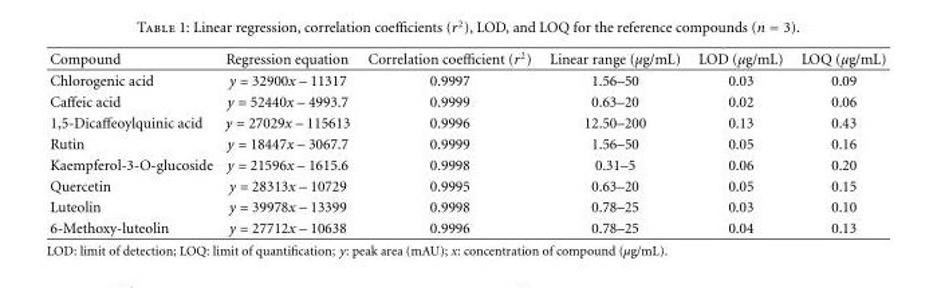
<table><thead><tr><td>Compound</td><td>Regression equation</td><td>Correlation coefficient (r<sup>2</sup>)</td><td>Linear range (μg/mL)</td><td>LOD (μg/mL)</td><td>LOQ (μg/mL)</td></tr></thead><tbody><tr><td>Chlorogenic acid</td><td>y = 32900x – 11317</td><td>0.9997</td><td>1.56–50</td><td>0.03</td><td>0.09</td></tr><tr><td>Caffeic acid</td><td>y = 52440x – 4993.7</td><td>0.9999</td><td>0.63–20</td><td>0.02</td><td>0.06</td></tr><tr><td>1,5-Dicaffeoylquinic acid</td><td>y = 27029x – 115613</td><td>0.9996</td><td>12.50–200</td><td>0.13</td><td>0.43</td></tr><tr><td>Rutin</td><td>y = 18447x – 3067.7</td><td>0.9999</td><td>1.56–50</td><td>0.05</td><td>0.16</td></tr><tr><td>Kaempferol-3-O-glucoside</td><td>y = 21596x – 1615.6</td><td>0.9998</td><td>0.31–5</td><td>0.06</td><td>0.20</td></tr><tr><td>Quercetin</td><td>y = 28313x – 10729</td><td>0.9995</td><td>0.63–20</td><td>0.05</td><td>0.15</td></tr><tr><td>Luteolin</td><td>y = 39978x – 13399</td><td>0.9998</td><td>0.78–25</td><td>0.03</td><td>0.10</td></tr><tr><td>6-Methoxy-luteolin</td><td>y = 27712x – 10638</td><td>0.9996</td><td>0.78–25</td><td>0.04</td><td>0.13</td></tr></tbody></table>